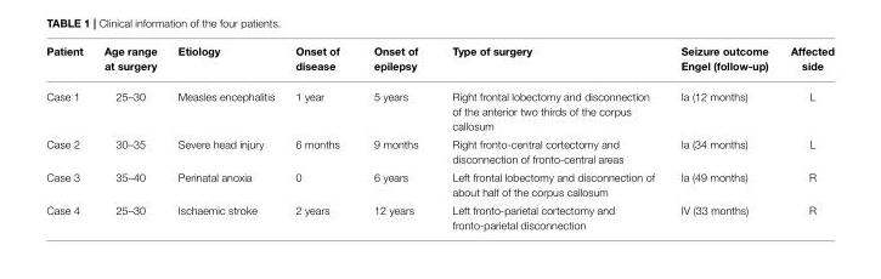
<table><thead><tr><td>Patient</td><td>Age range at surgery</td><td>Etiology</td><td>Onset of disease</td><td>Onset of epilepsy</td><td>Type of surgery</td><td>Seizure outcome Engel (follow-up)</td><td>Affected side</td></tr></thead><tbody><tr><td>Case 1</td><td>25–30</td><td>Measles encephalitis</td><td>1 year</td><td>5 years</td><td>Right frontal lobectomy and disconnection of the anterior two thirds of the corpus callosum</td><td>Ia (12 months)</td><td>L</td></tr><tr><td>Case 2</td><td>30–35</td><td>Severe head injury</td><td>6 months</td><td>9 months</td><td>Right fronto-central cortectomy and disconnection of fronto-central areas</td><td>Ia (34 months)</td><td>L</td></tr><tr><td>Case 3</td><td>35–40</td><td>Perinatal anoxia</td><td>0</td><td>6 years</td><td>Left frontal lobectomy and disconnection of about half of the corpus callosum</td><td>Ia (49 months)</td><td>R</td></tr><tr><td>Case 4</td><td>25–30</td><td>Ischaemic stroke</td><td>2 years</td><td>12 years</td><td>Left fronto-parietal cortectomy and fronto-parietal disconnection</td><td>IV (33 months)</td><td>R</td></tr></tbody></table>